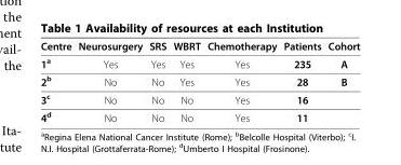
<table><thead><tr><td>Centre</td><td>Neurosurgery</td><td>SRS</td><td>WBRT</td><td>Chemotherapy</td><td>Patients</td><td>Cohort</td></tr></thead><tbody><tr><td>1<sup>a</sup></td><td>Yes</td><td>Yes</td><td>Yes</td><td>Yes</td><td>235</td><td>A</td></tr><tr><td>2<sup>b</sup></td><td>No</td><td>No</td><td>Yes</td><td>Yes</td><td>28</td><td>B</td></tr><tr><td>3<sup>c</sup></td><td>No</td><td>No</td><td>No</td><td>Yes</td><td>16</td><td></td></tr><tr><td>4<sup>d</sup></td><td>No</td><td>No</td><td>No</td><td>Yes</td><td>11</td><td></td></tr></tbody></table>